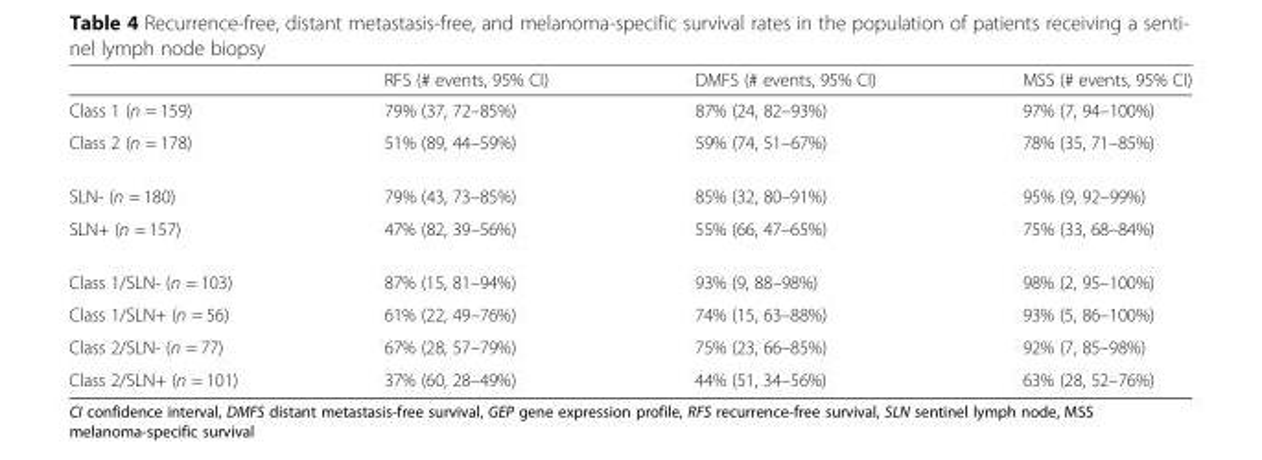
<table><thead><tr><td></td><td>RFS (# events, 95% CI)</td><td>DMFS (# events, 95% CI)</td><td>MSS (# events, 95% CI)</td></tr></thead><tbody><tr><td>Class 1 (n = 159)</td><td>79% (37, 72–85%)</td><td>87% (24, 82–93%)</td><td>97% (7, 94–100%)</td></tr><tr><td>Class 2 (n = 178)</td><td>51% (89, 44–59%)</td><td>59% (74, 51–67%)</td><td>78% (35, 71–85%)</td></tr><tr><td>SLN- (n = 180)</td><td>79% (43, 73–85%)</td><td>85% (32, 80–91%)</td><td>95% (9, 92–99%)</td></tr><tr><td>SLN+ (n = 157)</td><td>47% (82, 39–56%)</td><td>55% (66, 47–65%)</td><td>75% (33, 68–84%)</td></tr><tr><td>Class 1/SLN- (n = 103)</td><td>87% (15, 81–94%)</td><td>93% (9, 88–98%)</td><td>98% (2, 95–100%)</td></tr><tr><td>Class 1/SLN+ (n = 56)</td><td>61% (22, 49–76%)</td><td>74% (15, 63–88%)</td><td>93% (5, 86–100%)</td></tr><tr><td>Class 2/SLN- (n = 77)</td><td>67% (28, 57–79%)</td><td>75% (23, 66–85%)</td><td>92% (7, 85–98%)</td></tr><tr><td>Class 2/SLN+ (n = 101)</td><td>37% (60, 28–49%)</td><td>44% (51, 34–56%)</td><td>63% (28, 52–76%)</td></tr></tbody></table>